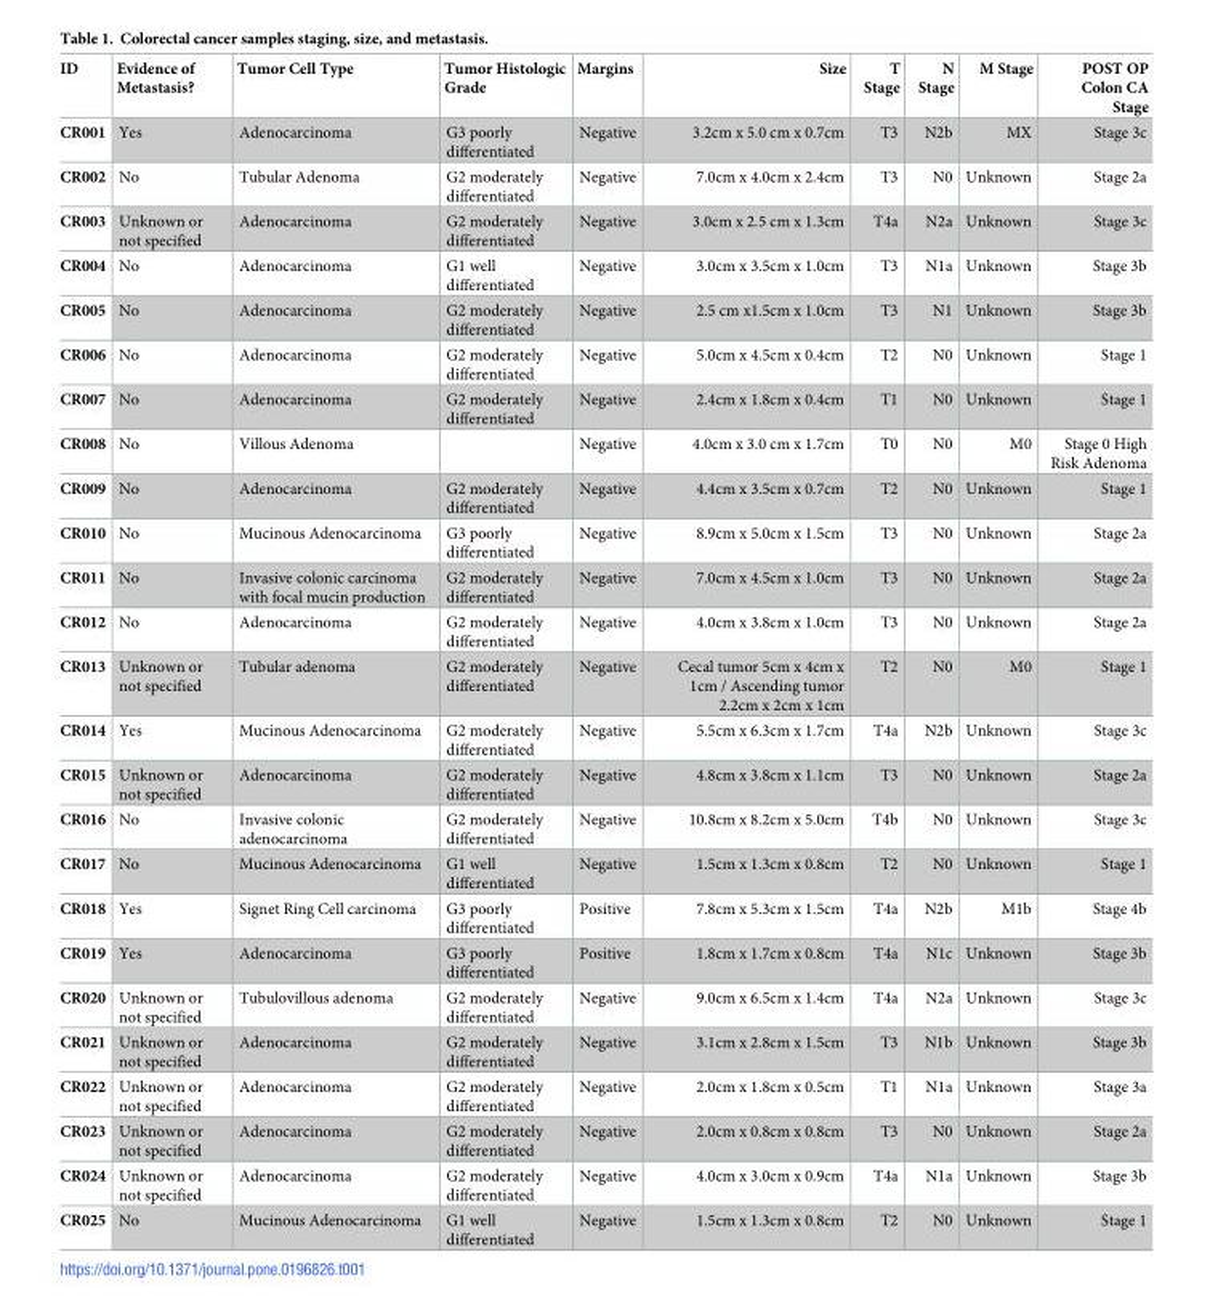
<table><thead><tr><td>ID</td><td>Evidence of Metastasis?</td><td>Tumor Cell Type</td><td>Tumor Histologic Grade</td><td>Margins</td><td>Size</td><td>T Stage</td><td>N Stage</td><td>M Stage</td><td>POST OP Colon CA Stage</td></tr></thead><tbody><tr><td>CR001</td><td>Yes</td><td>Adenocarcinoma</td><td>G3 poorly differentiated</td><td>Negative</td><td>3.2cm x 5.0 cm x 0.7cm</td><td>T3</td><td>N2b</td><td>MX</td><td>Stage 3c</td></tr><tr><td>CR002</td><td>No</td><td>Tubular Adenoma</td><td>G2 moderately differentiated</td><td>Negative</td><td>7.0cm x 4.0cm x 2.4cm</td><td>T3</td><td>N0</td><td>Unknown</td><td>Stage 2a</td></tr><tr><td>CR003</td><td>Unknown or not specified</td><td>Adenocarcinoma</td><td>G2 moderately differentiated</td><td>Negative</td><td>3.0cm x 2.5 cm x 1.3cm</td><td>T4a</td><td>N2a</td><td>Unknown</td><td>Stage 3c</td></tr><tr><td>CR004</td><td>No</td><td>Adenocarcinoma</td><td>G1 well differentiated</td><td>Negative</td><td>3.0cm x 3.5cm x 1.0cm</td><td>T3</td><td>N1a</td><td>Unknown</td><td>Stage 3b</td></tr><tr><td>CR005</td><td>No</td><td>Adenocarcinoma</td><td>G2 moderately differentiated</td><td>Negative</td><td>2.5 cm x1.5cm x 1.0cm</td><td>T3</td><td>N1</td><td>Unknown</td><td>Stage 3b</td></tr><tr><td>CR006</td><td>No</td><td>Adenocarcinoma</td><td>G2 moderately differentiated</td><td>Negative</td><td>5.0cm x 4.5cm x 0.4cm</td><td>T2</td><td>N0</td><td>Unknown</td><td>Stage 1</td></tr><tr><td>CR007</td><td>No</td><td>Adenocarcinoma</td><td>G2 moderately differentiated</td><td>Negative</td><td>2.4cm x 1.8cm x 0.4cm</td><td>T1</td><td>N0</td><td>Unknown</td><td>Stage 1</td></tr><tr><td>CR008</td><td>No</td><td>Villous Adenoma</td><td></td><td>Negative</td><td>4.0cm x 3.0 cm x 1.7cm</td><td>T0</td><td>N0</td><td>M0</td><td>Stage 0 High Risk Adenoma</td></tr><tr><td>CR009</td><td>No</td><td>Adenocarcinoma</td><td>G2 moderately differentiated</td><td>Negative</td><td>4.4cm x 3.5cm x 0.7cm</td><td>T2</td><td>N0</td><td>Unknown</td><td>Stage 1</td></tr><tr><td>CR010</td><td>No</td><td>Mucinous Adenocarcinoma</td><td>G3 poorly differentiated</td><td>Negative</td><td>8.9cm x 5.0cm x 1.5cm</td><td>T3</td><td>N0</td><td>Unknown</td><td>Stage 2a</td></tr><tr><td>CR011</td><td>No</td><td>Invasive colonic carcinoma with focal mucin production</td><td>G2 moderately differentiated</td><td>Negative</td><td>7.0cm x 4.5cm x 1.0cm</td><td>T3</td><td>N0</td><td>Unknown</td><td>Stage 2a</td></tr><tr><td>CR012</td><td>No</td><td>Adenocarcinoma</td><td>G2 moderately differentiated</td><td>Negative</td><td>4.0cm x 3.8cm x 1.0cm</td><td>T3</td><td>N0</td><td>Unknown</td><td>Stage 2a</td></tr><tr><td>CR013</td><td>Unknown or not specified</td><td>Tubular adenoma</td><td>G2 moderately differentiated</td><td>Negative</td><td>Cecal tumor 5cm x 4cm x 1cm / Ascending tumor 2.2cm x 2cm x 1cm</td><td>T2</td><td>N0</td><td>M0</td><td>Stage 1</td></tr><tr><td>CR014</td><td>Yes</td><td>Mucinous Adenocarcinoma</td><td>G2 moderately differentiated</td><td>Negative</td><td>5.5cm x 6.3cm x 1.7cm</td><td>T4a</td><td>N2b</td><td>Unknown</td><td>Stage 3c</td></tr><tr><td>CR015</td><td>Unknown or not specified</td><td>Adenocarcinoma</td><td>G2 moderately differentiated</td><td>Negative</td><td>4.8cm x 3.8cm x 1.1cm</td><td>T3</td><td>N0</td><td>Unknown</td><td>Stage 2a</td></tr><tr><td>CR016</td><td>No</td><td>Invasive colonic adenocarcinoma</td><td>G2 moderately differentiated</td><td>Negative</td><td>10.8cm x 8.2cm x 5.0cm</td><td>T4b</td><td>N0</td><td>Unknown</td><td>Stage 3c</td></tr><tr><td>CR017</td><td>No</td><td>Mucinous Adenocarcinoma</td><td>G1 well differentiated</td><td>Negative</td><td>1.5cm x 1.3cm x 0.8cm</td><td>T2</td><td>N0</td><td>Unknown</td><td>Stage 1</td></tr><tr><td>CR018</td><td>Yes</td><td>Signet Ring Cell carcinoma</td><td>G3 poorly differentiated</td><td>Positive</td><td>7.8cm x 5.3cm x 1.5cm</td><td>T4a</td><td>N2b</td><td>M1b</td><td>Stage 4b</td></tr><tr><td>CR019</td><td>Yes</td><td>Adenocarcinoma</td><td>G3 poorly differentiated</td><td>Positive</td><td>1.8cm x 1.7cm x 0.8cm</td><td>T4a</td><td>N1c</td><td>Unknown</td><td>Stage 3b</td></tr><tr><td>CR020</td><td>Unknown or not specified</td><td>Tubulovillous adenoma</td><td>G2 moderately differentiated</td><td>Negative</td><td>9.0cm x 6.5cm x 1.4cm</td><td>T4a</td><td>N2a</td><td>Unknown</td><td>Stage 3c</td></tr><tr><td>CR021</td><td>Unknown or not specified</td><td>Adenocarcinoma</td><td>G2 moderately differentiated</td><td>Negative</td><td>3.1cm x 2.8cm x 1.5cm</td><td>T3</td><td>N1b</td><td>Unknown</td><td>Stage 3b</td></tr><tr><td>CR022</td><td>Unknown or not specified</td><td>Adenocarcinoma</td><td>G2 moderately differentiated</td><td>Negative</td><td>2.0cm x 1.8cm x 0.5cm</td><td>T1</td><td>N1a</td><td>Unknown</td><td>Stage 3a</td></tr><tr><td>CR023</td><td>Unknown or not specified</td><td>Adenocarcinoma</td><td>G2 moderately differentiated</td><td>Negative</td><td>2.0cm x 0.8cm x 0.8cm</td><td>T3</td><td>N0</td><td>Unknown</td><td>Stage 2a</td></tr><tr><td>CR024</td><td>Unknown or not specified</td><td>Adenocarcinoma</td><td>G2 moderately differentiated</td><td>Negative</td><td>4.0cm x 3.0cm x 0.9cm</td><td>T4a</td><td>N1a</td><td>Unknown</td><td>Stage 3b</td></tr><tr><td>CR025</td><td>No</td><td>Mucinous Adenocarcinoma</td><td>G1 well differentiated</td><td>Negative</td><td>1.5cm x 1.3cm x 0.8cm</td><td>T2</td><td>N0</td><td>Unknown</td><td>Stage 1</td></tr></tbody></table>